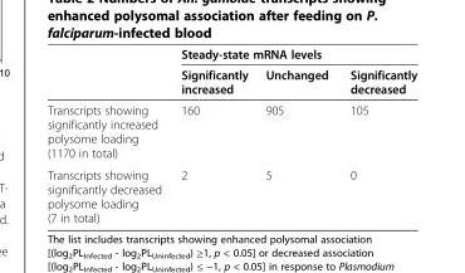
<table><thead><tr><td rowspan="2"></td><td colspan="3">Steady-state mRNA levels</td></tr><tr><td>Significantly increased</td><td>Unchanged</td><td>Significantly decreased</td></tr></thead><tbody><tr><td>Transcripts showing significantly increased polysome loading (1170 in total)</td><td>160</td><td>905</td><td>105</td></tr><tr><td>Transcripts showing significantly decreased polysome loading (7 in total)</td><td>2</td><td>5</td><td>0</td></tr></tbody></table>